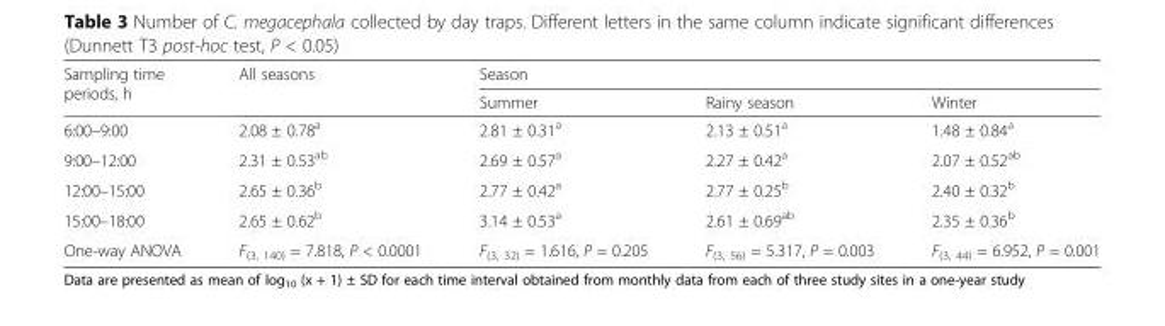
<table><thead><tr><td rowspan="2">Sampling time periods, h</td><td rowspan="2">All seasons</td><td colspan="3">Season</td></tr><tr><td>Summer</td><td>Rainy season</td><td>Winter</td></tr></thead><tbody><tr><td>6:00–9:00</td><td>2.08 ± 0.78<sup>a</sup></td><td>2.81 ± 0.31<sup>a</sup></td><td>2.13 ± 0.51<sup>a</sup></td><td>1.48 ± 0.84<sup>a</sup></td></tr><tr><td>9:00–12:00</td><td>2.31 ± 0.53<sup>ab</sup></td><td>2.69 ± 0.57<sup>a</sup></td><td>2.27 ± 0.42<sup>a</sup></td><td>2.07 ± 0.52<sup>ab</sup></td></tr><tr><td>12:00–15:00</td><td>2.65 ± 0.36<sup>b</sup></td><td>2.77 ± 0.42<sup>a</sup></td><td>2.77 ± 0.25<sup>b</sup></td><td>2.40 ± 0.32<sup>b</sup></td></tr><tr><td>15:00–18:00</td><td>2.65 ± 0.62<sup>b</sup></td><td>3.14 ± 0.53<sup>a</sup></td><td>2.61 ± 0.69<sup>ab</sup></td><td>2.35 ± 0.36<sup>b</sup></td></tr><tr><td>One-way ANOVA</td><td>F<sub>(3, 140)</sub> = 7.818, P &lt; 0.0001</td><td>F<sub>(3, 32)</sub> = 1.616, P = 0.205</td><td>F<sub>(3, 56)</sub> = 5.317, P = 0.003</td><td>F<sub>(3, 44)</sub> = 6.952, P = 0.001</td></tr></tbody></table>